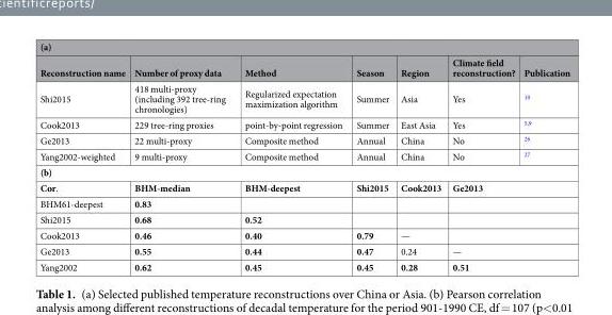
<table><thead><tr><td colspan="7">(a)</td></tr><tr><td>Reconstruction name</td><td>Number of proxy data</td><td>Method</td><td>Season</td><td>Region</td><td>Climate field reconstruction?</td><td>Publication</td></tr></thead><tbody><tr><td>Shi2015</td><td>418 multi-proxy (including 392 tree-ring chronologies)</td><td>Regularized expectation maximization algorithm</td><td>Summer</td><td>Asia</td><td>Yes</td><td><sup>10</sup></td></tr><tr><td>Cook2013</td><td>229 tree-ring proxies</td><td>point-by-point regression</td><td>Summer</td><td>East Asia</td><td>Yes</td><td><sup>5,9</sup></td></tr><tr><td>Ge2013</td><td>22 multi-proxy</td><td>Composite method</td><td>Annual</td><td>China</td><td>No</td><td><sup>26</sup></td></tr><tr><td>Yang2002-weighted</td><td>9 multi-proxy</td><td>Composite method</td><td>Annual</td><td>China</td><td>No</td><td><sup>27</sup></td></tr><tr><td colspan="7">(b)</td></tr><tr><td>Cor.</td><td>BHM-median</td><td>BHM-deepest</td><td>Shi2015</td><td>Cook2013</td><td colspan="2">Ge2013</td></tr><tr><td>BHM61-deepest</td><td>0.83</td><td></td><td></td><td></td><td colspan="2"></td></tr><tr><td>Shi2015</td><td>0.68</td><td>0.52</td><td></td><td></td><td colspan="2"></td></tr><tr><td>Cook2013</td><td>0.46</td><td>0.40</td><td>0.79</td><td>—</td><td colspan="2"></td></tr><tr><td>Ge2013</td><td>0.55</td><td>0.44</td><td>0.47</td><td>0.24</td><td colspan="2">—</td></tr><tr><td>Yang2002</td><td>0.62</td><td>0.45</td><td>0.45</td><td>0.28</td><td colspan="2">0.51</td></tr></tbody></table>